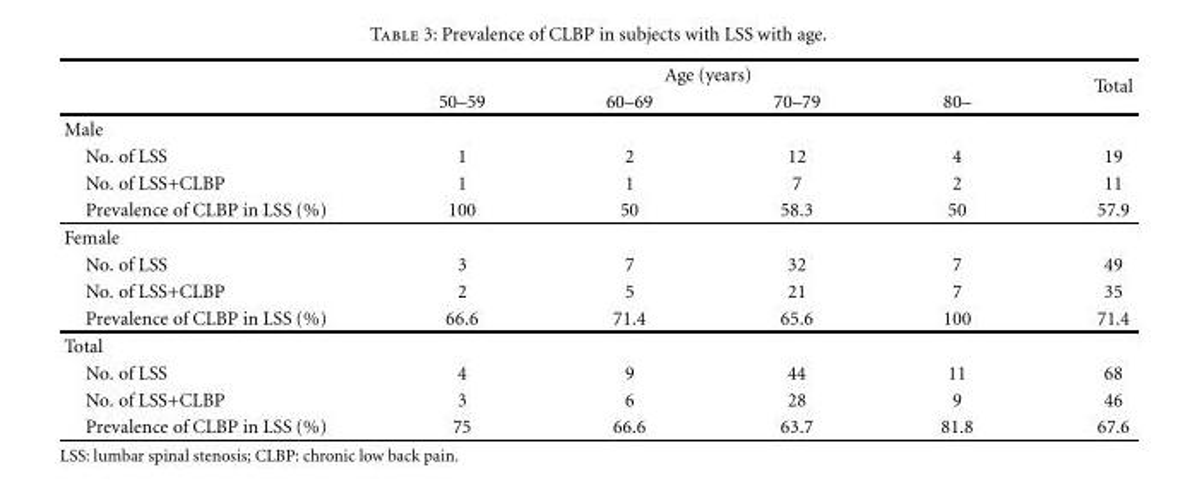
<table><thead><tr><td rowspan="2"></td><td colspan="4">Age (years)</td><td rowspan="2">Total</td></tr><tr><td>50–59</td><td>60–69</td><td>70–79</td><td>80–</td></tr></thead><tbody><tr><td colspan="6">Male</td></tr><tr><td>No. of LSS</td><td>1</td><td>2</td><td>12</td><td>4</td><td>19</td></tr><tr><td>No. of LSS+CLBP</td><td>1</td><td>1</td><td>7</td><td>2</td><td>11</td></tr><tr><td>Prevalence of CLBP in LSS (%)</td><td>100</td><td>50</td><td>58.3</td><td>50</td><td>57.9</td></tr><tr><td colspan="6">Female</td></tr><tr><td>No. of LSS</td><td>3</td><td>7</td><td>32</td><td>7</td><td>49</td></tr><tr><td>No. of LSS+CLBP</td><td>2</td><td>5</td><td>21</td><td>7</td><td>35</td></tr><tr><td>Prevalence of CLBP in LSS (%)</td><td>66.6</td><td>71.4</td><td>65.6</td><td>100</td><td>71.4</td></tr><tr><td colspan="6">Total</td></tr><tr><td>No. of LSS</td><td>4</td><td>9</td><td>44</td><td>11</td><td>68</td></tr><tr><td>No. of LSS+CLBP</td><td>3</td><td>6</td><td>28</td><td>9</td><td>46</td></tr><tr><td>Prevalence of CLBP in LSS (%)</td><td>75</td><td>66.6</td><td>63.7</td><td>81.8</td><td>67.6</td></tr></tbody></table>